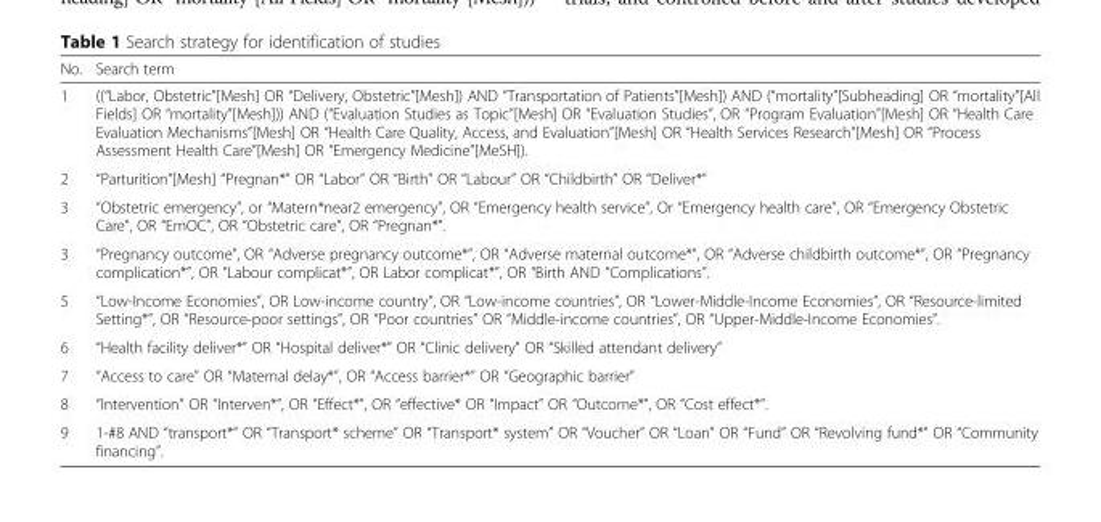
<table><thead><tr><td>No.</td><td>Search term</td></tr></thead><tbody><tr><td>1</td><td>((“Labor, Obstetric”[Mesh] OR “Delivery, Obstetric”[Mesh]) AND “Transportation of Patients”[Mesh]) AND (“mortality”[Subheading] OR “mortality”[All Fields] OR “mortality”[Mesh])) AND (“Evaluation Studies as Topic”[Mesh] OR “Evaluation Studies”, OR “Program Evaluation”[Mesh] OR “Health Care Evaluation Mechanisms”[Mesh] OR “Health Care Quality, Access, and Evaluation”[Mesh] OR “Health Services Research”[Mesh] OR “Process Assessment Health Care”[Mesh] OR “Emergency Medicine”[MeSH]).</td></tr><tr><td>2</td><td>“Parturition”[Mesh] “Pregnan*” OR “Labor” OR “Birth” OR “Labour” OR “Childbirth” OR “Deliver*”</td></tr><tr><td>3</td><td>“Obstetric emergency”, or “Matern*near2 emergency”, OR “Emergency health service”, Or “Emergency health care”, OR “Emergency Obstetric Care”, OR “EmOC”, OR “Obstetric care”, OR “Pregnan*”.</td></tr><tr><td>3</td><td>“Pregnancy outcome”, OR “Adverse pregnancy outcome*”, OR “Adverse maternal outcome*”, OR “Adverse childbirth outcome*”, OR “Pregnancy complication*”, OR “Labour complicat*”, OR Labor complicat*”, OR “Birth AND “Complications”.</td></tr><tr><td>5</td><td>“Low-Income Economies”, OR Low-income country”, OR “Low-income countries”, OR “Lower-Middle-Income Economies”, OR “Resource-limited Setting*”, OR “Resource-poor settings”, OR “Poor countries” OR “Middle-income countries”, OR “Upper-Middle-Income Economies”.</td></tr><tr><td>6</td><td>“Health facility deliver*” OR “Hospital deliver*” OR “Clinic delivery” OR “Skilled attendant delivery”</td></tr><tr><td>7</td><td>“Access to care” OR “Maternal delay*”, OR “Access barrier*” OR “Geographic barrier”</td></tr><tr><td>8</td><td>“Intervention” OR “Interven*”, OR “Effect*”, OR “effective* OR “Impact” OR “Outcome*”, OR “Cost effect*”.</td></tr><tr><td>9</td><td>1-#8 AND “transport*” OR “Transport* scheme” OR “Transport* system” OR “Voucher” OR “Loan” OR “Fund” OR “Revolving fund*” OR “Community financing”.</td></tr></tbody></table>